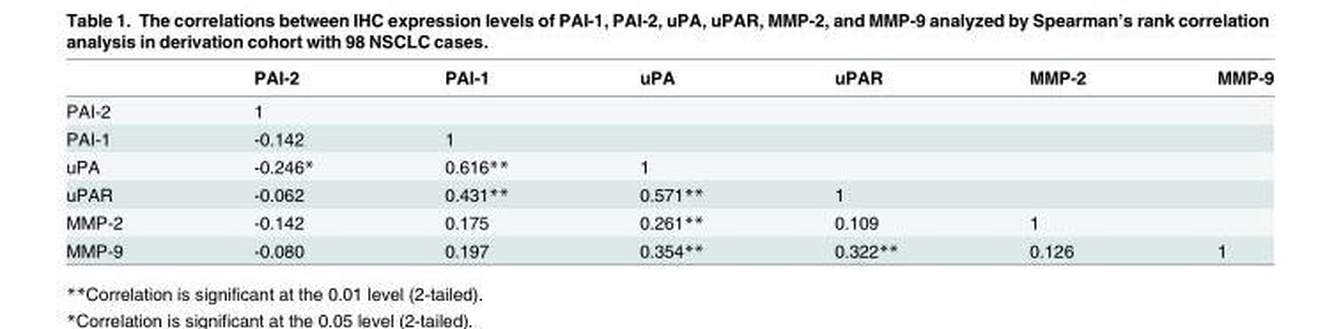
<table><thead><tr><td></td><td>PAI-2</td><td>PAI-1</td><td>uPA</td><td>uPAR</td><td>MMP-2</td><td>MMP-9</td></tr></thead><tbody><tr><td>PAI-2</td><td>1</td><td></td><td></td><td></td><td></td><td></td></tr><tr><td>PAI-1</td><td>-0.142</td><td>1</td><td></td><td></td><td></td><td></td></tr><tr><td>uPA</td><td>-0.246*</td><td>0.616**</td><td>1</td><td></td><td></td><td></td></tr><tr><td>uPAR</td><td>-0.062</td><td>0.431**</td><td>0.571**</td><td>1</td><td></td><td></td></tr><tr><td>MMP-2</td><td>-0.142</td><td>0.175</td><td>0.261**</td><td>0.109</td><td>1</td><td></td></tr><tr><td>MMP-9</td><td>-0.080</td><td>0.197</td><td>0.354**</td><td>0.322**</td><td>0.126</td><td>1</td></tr></tbody></table>